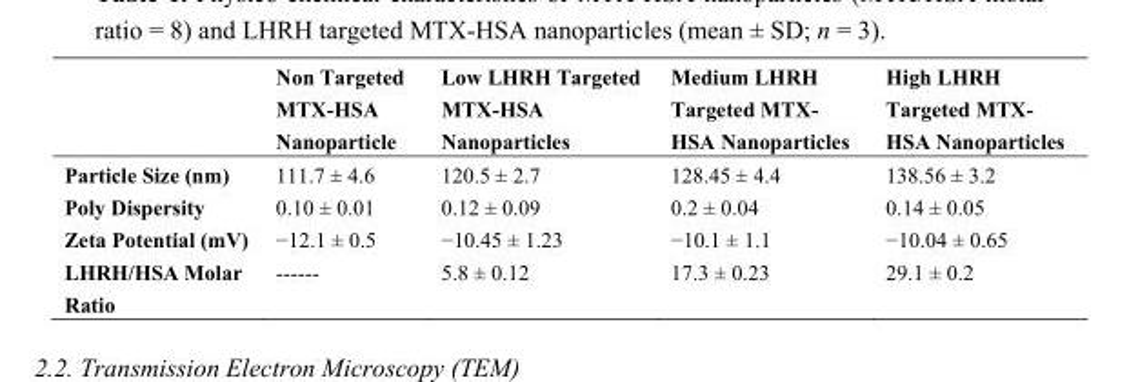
<table><thead><tr><td></td><td>Non Targeted MTX-HSA Nanoparticle</td><td>Low LHRH Targeted MTX-HSA Nanoparticles</td><td>Medium LHRH Targeted MTX- HSA Nanoparticles</td><td>High LHRH Targeted MTX- HSA Nanoparticles</td></tr></thead><tbody><tr><td>Particle Size (nm)</td><td>111.7 ± 4.6</td><td>120.5 ± 2.7</td><td>128.45 ± 4.4</td><td>138.56 ± 3.2</td></tr><tr><td>Poly Dispersity</td><td>0.10 ± 0.01</td><td>0.12 ± 0.09</td><td>0.2 ± 0.04</td><td>0.14 ± 0.05</td></tr><tr><td>Zeta Potential (mV)</td><td>−12.1 ± 0.5</td><td>−10.45 ± 1.23</td><td>−10.1 ± 1.1</td><td>−10.04 ± 0.65</td></tr><tr><td>LHRH/HSA Molar Ratio</td><td>------</td><td>5.8 ± 0.12</td><td>17.3 ± 0.23</td><td>29.1 ± 0.2</td></tr></tbody></table>